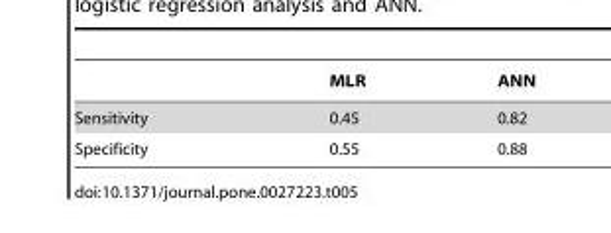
<table><thead><tr><td></td><td>MLR</td><td>ANN</td></tr></thead><tbody><tr><td>Sensitivity</td><td>0.45</td><td>0.82</td></tr><tr><td>Specificity</td><td>0.55</td><td>0.88</td></tr></tbody></table>